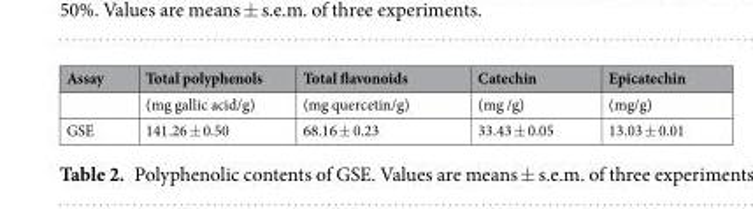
<table><thead><tr><td>Assay</td><td>Total polyphenols</td><td>Total flavonoids</td><td>Catechin</td><td>Epicatechin</td></tr></thead><tbody><tr><td></td><td>(mg gallic acid/g)</td><td>(mg quercetin/g)</td><td>(mg /g)</td><td>(mg/g)</td></tr><tr><td>GSE</td><td>141.26 ± 0.50</td><td>68.16 ± 0.23</td><td>33.43 ± 0.05</td><td>13.03 ± 0.01</td></tr></tbody></table>